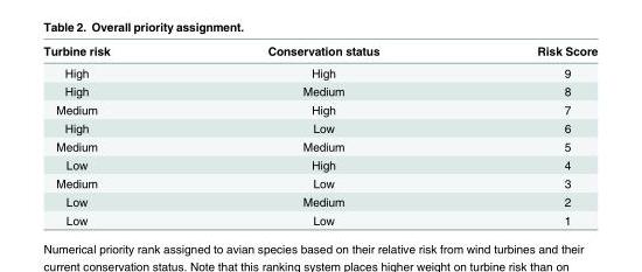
<table><thead><tr><td>Turbine risk</td><td>Conservation status</td><td>Risk Score</td></tr></thead><tbody><tr><td>High</td><td>High</td><td>9</td></tr><tr><td>High</td><td>Medium</td><td>8</td></tr><tr><td>Medium</td><td>High</td><td>7</td></tr><tr><td>High</td><td>Low</td><td>6</td></tr><tr><td>Medium</td><td>Medium</td><td>5</td></tr><tr><td>Low</td><td>High</td><td>4</td></tr><tr><td>Medium</td><td>Low</td><td>3</td></tr><tr><td>Low</td><td>Medium</td><td>2</td></tr><tr><td>Low</td><td>Low</td><td>1</td></tr></tbody></table>